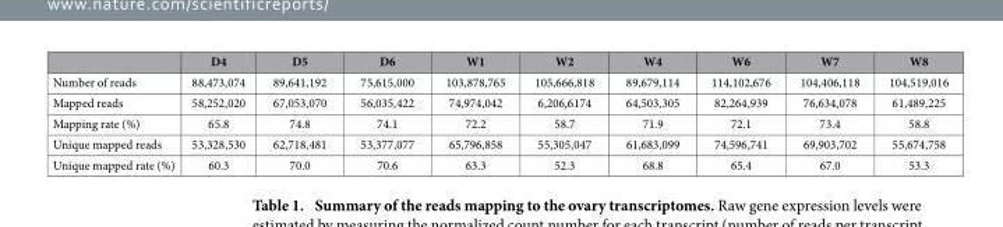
<table><thead><tr><td></td><td>D4</td><td>D5</td><td>D6</td><td>W1</td><td>W2</td><td>W4</td><td>W6</td><td>W7</td><td>W8</td></tr></thead><tbody><tr><td>Number of reads</td><td>88,473,074</td><td>89,641,192</td><td>75,615,000</td><td>103,878,765</td><td>105,666,818</td><td>89,679,114</td><td>114,102,676</td><td>104,406,118</td><td>104,519,016</td></tr><tr><td>Mapped reads</td><td>58,252,020</td><td>67,053,070</td><td>56,035,422</td><td>74,974,042</td><td>6,206,6174</td><td>64,503,305</td><td>82,264,939</td><td>76,634,078</td><td>61,489,225</td></tr><tr><td>Mapping rate (%)</td><td>65.8</td><td>74.8</td><td>74.1</td><td>72.2</td><td>58.7</td><td>71.9</td><td>72.1</td><td>73.4</td><td>58.8</td></tr><tr><td>Unique mapped reads</td><td>53,328,530</td><td>62,718,481</td><td>53,377,077</td><td>65,796,858</td><td>55,305,047</td><td>61,683,099</td><td>74,596,741</td><td>69,903,702</td><td>55,674,758</td></tr><tr><td>Unique mapped rate (%)</td><td>60.3</td><td>70.0</td><td>70.6</td><td>63.3</td><td>52.3</td><td>68.8</td><td>65.4</td><td>67.0</td><td>53.3</td></tr></tbody></table>